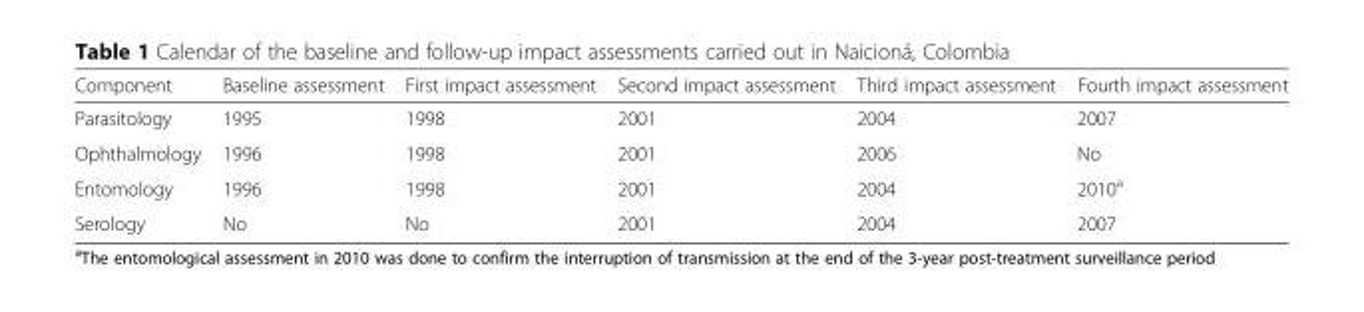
<table><thead><tr><td>Component</td><td>Baseline assessment</td><td>First impact assessment</td><td>Second impact assessment</td><td>Third impact assessment</td><td>Fourth impact assessment</td></tr></thead><tbody><tr><td>Parasitology</td><td>1995</td><td>1998</td><td>2001</td><td>2004</td><td>2007</td></tr><tr><td>Ophthalmology</td><td>1996</td><td>1998</td><td>2001</td><td>2006</td><td>No</td></tr><tr><td>Entomology</td><td>1996</td><td>1998</td><td>2001</td><td>2004</td><td>2010<sup>a</sup></td></tr><tr><td>Serology</td><td>No</td><td>No</td><td>2001</td><td>2004</td><td>2007</td></tr></tbody></table>